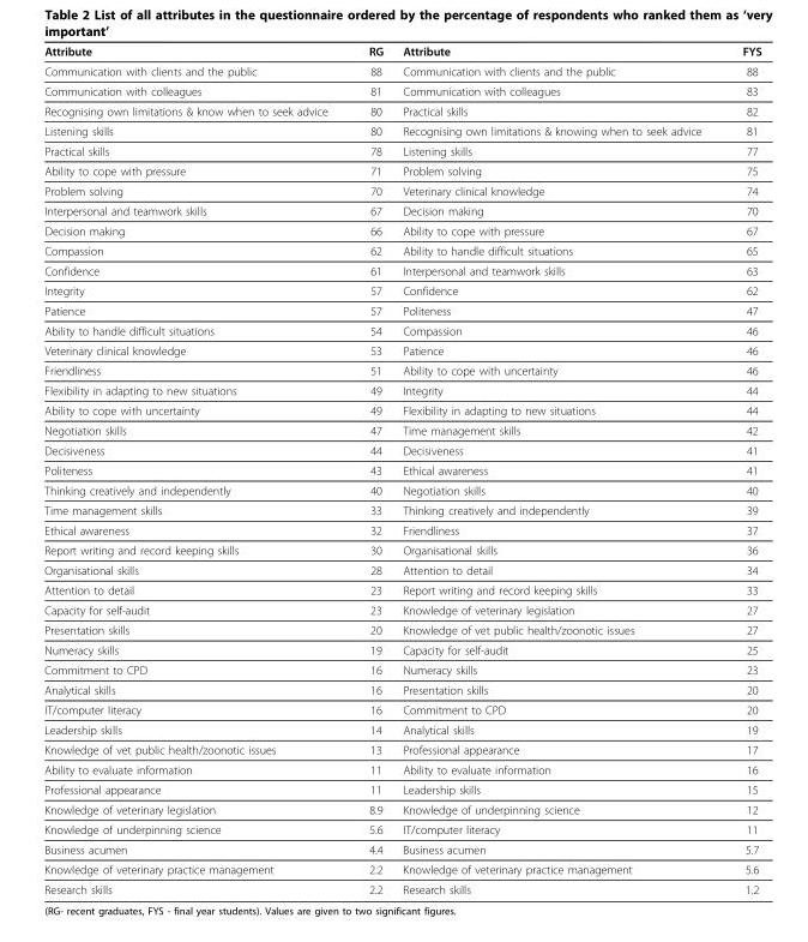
<table><thead><tr><td>Attribute</td><td>RG</td><td>Attribute</td><td>FYS</td></tr></thead><tbody><tr><td>Communication with clients and the public</td><td>88</td><td>Communication with clients and the public</td><td>88</td></tr><tr><td>Communication with colleagues</td><td>81</td><td>Communication with colleagues</td><td>83</td></tr><tr><td>Recognising own limitations &amp; know when to seek advice</td><td>80</td><td>Practical skills</td><td>82</td></tr><tr><td>Listening skills</td><td>80</td><td>Recognising own limitations &amp; knowing when to seek advice</td><td>81</td></tr><tr><td>Practical skills</td><td>78</td><td>Listening skills</td><td>77</td></tr><tr><td>Ability to cope with pressure</td><td>71</td><td>Problem solving</td><td>75</td></tr><tr><td>Problem solving</td><td>70</td><td>Veterinary clinical knowledge</td><td>74</td></tr><tr><td>Interpersonal and teamwork skills</td><td>67</td><td>Decision making</td><td>70</td></tr><tr><td>Decision making</td><td>66</td><td>Ability to cope with pressure</td><td>67</td></tr><tr><td>Compassion</td><td>62</td><td>Ability to handle difficult situations</td><td>65</td></tr><tr><td>Confidence</td><td>61</td><td>Interpersonal and teamwork skills</td><td>63</td></tr><tr><td>Integrity</td><td>57</td><td>Confidence</td><td>62</td></tr><tr><td>Patience</td><td>57</td><td>Politeness</td><td>47</td></tr><tr><td>Ability to handle difficult situations</td><td>54</td><td>Compassion</td><td>46</td></tr><tr><td>Veterinary clinical knowledge</td><td>53</td><td>Patience</td><td>46</td></tr><tr><td>Friendliness</td><td>51</td><td>Ability to cope with uncertainty</td><td>46</td></tr><tr><td>Flexibility in adapting to new situations</td><td>49</td><td>Integrity</td><td>44</td></tr><tr><td>Ability to cope with uncertainty</td><td>49</td><td>Flexibility in adapting to new situations</td><td>44</td></tr><tr><td>Negotiation skills</td><td>47</td><td>Time management skills</td><td>42</td></tr><tr><td>Decisiveness</td><td>44</td><td>Decisiveness</td><td>41</td></tr><tr><td>Politeness</td><td>43</td><td>Ethical awareness</td><td>41</td></tr><tr><td>Thinking creatively and independently</td><td>40</td><td>Negotiation skills</td><td>40</td></tr><tr><td>Time management skills</td><td>33</td><td>Thinking creatively and independently</td><td>39</td></tr><tr><td>Ethical awareness</td><td>32</td><td>Friendliness</td><td>37</td></tr><tr><td>Report writing and record keeping skills</td><td>30</td><td>Organisational skills</td><td>36</td></tr><tr><td>Organisational skills</td><td>28</td><td>Attention to detail</td><td>34</td></tr><tr><td>Attention to detail</td><td>23</td><td>Report writing and record keeping skills</td><td>33</td></tr><tr><td>Capacity for self-audit</td><td>23</td><td>Knowledge of veterinary legislation</td><td>27</td></tr><tr><td>Presentation skills</td><td>20</td><td>Knowledge of vet public health/zoonotic issues</td><td>27</td></tr><tr><td>Numeracy skills</td><td>19</td><td>Capacity for self-audit</td><td>25</td></tr><tr><td>Commitment to CPD</td><td>16</td><td>Numeracy skills</td><td>23</td></tr><tr><td>Analytical skills</td><td>16</td><td>Presentation skills</td><td>20</td></tr><tr><td>IT/computer literacy</td><td>16</td><td>Commitment to CPD</td><td>20</td></tr><tr><td>Leadership skills</td><td>14</td><td>Analytical skills</td><td>19</td></tr><tr><td>Knowledge of vet public health/zoonotic issues</td><td>13</td><td>Professional appearance</td><td>17</td></tr><tr><td>Ability to evaluate information</td><td>11</td><td>Ability to evaluate information</td><td>16</td></tr><tr><td>Professional appearance</td><td>11</td><td>Leadership skills</td><td>15</td></tr><tr><td>Knowledge of veterinary legislation</td><td>8.9</td><td>Knowledge of underpinning science</td><td>12</td></tr><tr><td>Knowledge of underpinning science</td><td>5.6</td><td>IT/computer literacy</td><td>11</td></tr><tr><td>Business acumen</td><td>4.4</td><td>Business acumen</td><td>5.7</td></tr><tr><td>Knowledge of veterinary practice management</td><td>2.2</td><td>Knowledge of veterinary practice management</td><td>5.6</td></tr><tr><td>Research skills</td><td>2.2</td><td>Research skills</td><td>1.2</td></tr></tbody></table>